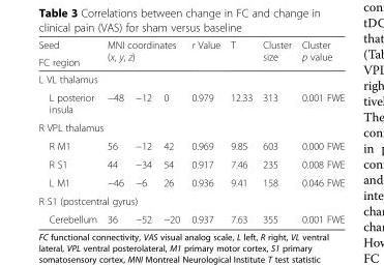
<table><thead><tr><td rowspan="2">Seed FC region</td><td rowspan="2" colspan="3">MNI coordinates (x, y, z)</td><td rowspan="2">r Value</td><td rowspan="2">T</td><td rowspan="2">Cluster size</td><td rowspan="2">Cluster p value</td></tr><tr></tr><tr><td colspan="8">L VL thalamus</td></tr><tr><td>L posterior insula</td><td>−48</td><td>−12</td><td>0</td><td>0.979</td><td>12.33</td><td>313</td><td>0.001 FWE</td></tr></thead><tbody><tr><td colspan="8">R VPL thalamus</td></tr><tr><td>R M1</td><td>56</td><td>−12</td><td>42</td><td>0.969</td><td>9.85</td><td>603</td><td>0.000 FWE</td></tr><tr><td>R S1</td><td>44</td><td>−34</td><td>54</td><td>0.917</td><td>7.46</td><td>235</td><td>0.008 FWE</td></tr><tr><td>L M1</td><td>−46</td><td>−6</td><td>26</td><td>0.936</td><td>9.41</td><td>158</td><td>0.046 FWE</td></tr><tr><td colspan="8">R S1 (postcentral gyrus)</td></tr><tr><td>Cerebellum</td><td>36</td><td>−52</td><td>−20</td><td>0.937</td><td>7.63</td><td>355</td><td>0.001 FWE</td></tr></tbody></table>